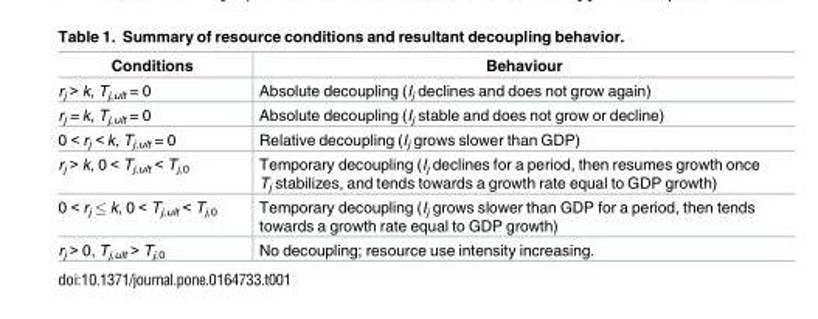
<table><thead><tr><td>Conditions</td><td>Behaviour</td></tr></thead><tbody><tr><td>r<sub>j</sub> &gt; k, T<sub>j,ult</sub> = 0</td><td>Absolute decoupling (I<sub>j</sub> declines and does not grow again)</td></tr><tr><td>r<sub>j</sub> = k, T<sub>j,ult</sub> = 0</td><td>Absolute decoupling (I<sub>j</sub> stable and does not grow or decline)</td></tr><tr><td>0 &lt; r<sub>j</sub> &lt; k, T<sub>j,ult</sub> = 0</td><td>Relative decoupling (I<sub>j</sub> grows slower than GDP)</td></tr><tr><td>r<sub>j</sub> &gt; k, 0 &lt; T<sub>j,ult</sub> &lt; T<sub>j,0</sub></td><td>Temporary decoupling (I<sub>j</sub> declines for a period, then resumes growth once T<sub>j</sub> stabilizes, and tends towards a growth rate equal to GDP growth)</td></tr><tr><td>0 &lt; r<sub>j</sub> ≤ k, 0 &lt; T<sub>j,ult</sub> &lt; T<sub>j,0</sub></td><td>Temporary decoupling (I<sub>j</sub> grows slower than GDP for a period, then tends towards a growth rate equal to GDP growth)</td></tr><tr><td>r<sub>j</sub> &gt; 0, T<sub>j,ult</sub> &gt; T<sub>j,0</sub></td><td>No decoupling; resource use intensity increasing.</td></tr></tbody></table>